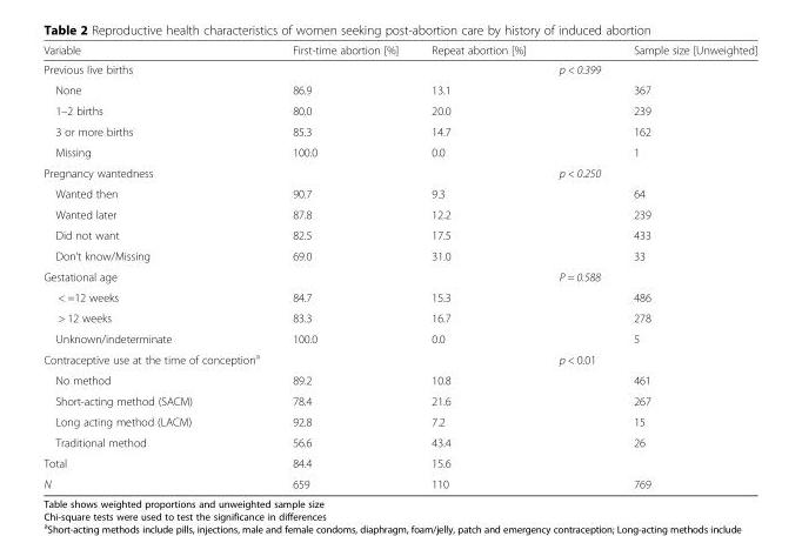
<table><thead><tr><td>Variable</td><td>First-time abortion [%]</td><td>Repeat abortion [%]</td><td></td><td>Sample size [Unweighted]</td></tr></thead><tbody><tr><td>Previous live births</td><td></td><td></td><td>p &lt; 0.399</td><td></td></tr><tr><td>None</td><td>86.9</td><td>13.1</td><td></td><td>367</td></tr><tr><td>1–2 births</td><td>80.0</td><td>20.0</td><td></td><td>239</td></tr><tr><td>3 or more births</td><td>85.3</td><td>14.7</td><td></td><td>162</td></tr><tr><td>Missing</td><td>100.0</td><td>0.0</td><td></td><td>1</td></tr><tr><td>Pregnancy wantedness</td><td></td><td></td><td>p &lt; 0.250</td><td></td></tr><tr><td>Wanted then</td><td>90.7</td><td>9.3</td><td></td><td>64</td></tr><tr><td>Wanted later</td><td>87.8</td><td>12.2</td><td></td><td>239</td></tr><tr><td>Did not want</td><td>82.5</td><td>17.5</td><td></td><td>433</td></tr><tr><td>Don’t know/Missing</td><td>69.0</td><td>31.0</td><td></td><td>33</td></tr><tr><td>Gestational age</td><td></td><td></td><td>P = 0.588</td><td></td></tr><tr><td>&lt; =12 weeks</td><td>84.7</td><td>15.3</td><td></td><td>486</td></tr><tr><td>&gt; 12 weeks</td><td>83.3</td><td>16.7</td><td></td><td>278</td></tr><tr><td>Unknown/indeterminate</td><td>100.0</td><td>0.0</td><td></td><td>5</td></tr><tr><td>Contraceptive use at the time of conception<sup>a</sup></td><td></td><td></td><td>p &lt; 0.01</td><td></td></tr><tr><td>No method</td><td>89.2</td><td>10.8</td><td></td><td>461</td></tr><tr><td>Short-acting method (SACM)</td><td>78.4</td><td>21.6</td><td></td><td>267</td></tr><tr><td>Long acting method (LACM)</td><td>92.8</td><td>7.2</td><td></td><td>15</td></tr><tr><td>Traditional method</td><td>56.6</td><td>43.4</td><td></td><td>26</td></tr><tr><td>Total</td><td>84.4</td><td>15.6</td><td></td><td></td></tr><tr><td>N</td><td>659</td><td>110</td><td></td><td>769</td></tr></tbody></table>